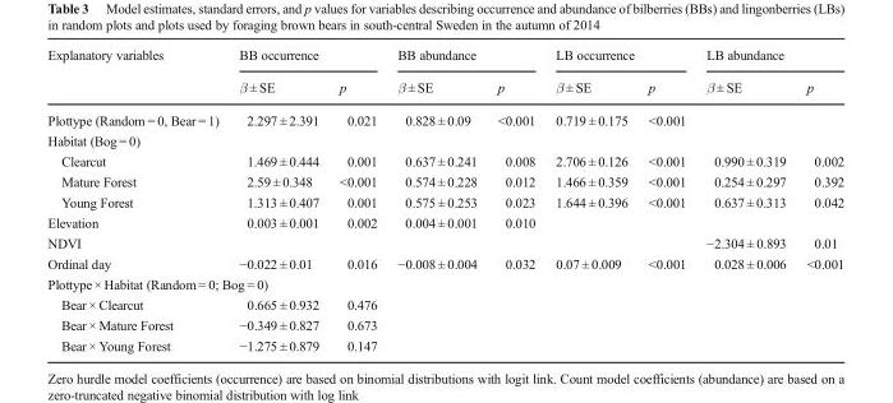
<table><thead><tr><td rowspan="2">Explanatory variables</td><td colspan="2">BB occurrence</td><td colspan="2">BB abundance</td><td colspan="2">LB occurrence</td><td colspan="2">LB abundance</td></tr><tr><td>β ± SE</td><td>p</td><td>β ± SE</td><td>p</td><td>β ± SE</td><td>p</td><td>β ± SE</td><td>p</td></tr></thead><tbody><tr><td>Plottype (Random = 0, Bear = 1)</td><td>2.297 ± 2.391</td><td>0.021</td><td>0.828 ± 0.09</td><td>&lt;0.001</td><td>0.719 ± 0.175</td><td>&lt;0.001</td><td></td><td></td></tr><tr><td colspan="9">Habitat (Bog = 0)</td></tr><tr><td>Clearcut</td><td>1.469 ± 0.444</td><td>0.001</td><td>0.637 ± 0.241</td><td>0.008</td><td>2.706 ± 0.126</td><td>&lt;0.001</td><td>0.990 ± 0.319</td><td>0.002</td></tr><tr><td>Mature Forest</td><td>2.59 ± 0.348</td><td>&lt;0.001</td><td>0.574 ± 0.228</td><td>0.012</td><td>1.466 ± 0.359</td><td>&lt;0.001</td><td>0.254 ± 0.297</td><td>0.392</td></tr><tr><td>Young Forest</td><td>1.313 ± 0.407</td><td>0.001</td><td>0.575 ± 0.253</td><td>0.023</td><td>1.644 ± 0.396</td><td>&lt;0.001</td><td>0.637 ± 0.313</td><td>0.042</td></tr><tr><td>Elevation</td><td>0.003 ± 0.001</td><td>0.002</td><td>0.004 ± 0.001</td><td>0.010</td><td></td><td></td><td></td><td></td></tr><tr><td>NDVI</td><td></td><td></td><td></td><td></td><td></td><td></td><td>−2.304 ± 0.893</td><td>0.01</td></tr><tr><td>Ordinal day</td><td>−0.022 ± 0.01</td><td>0.016</td><td>−0.008 ± 0.004</td><td>0.032</td><td>0.07 ± 0.009</td><td>&lt;0.001</td><td>0.028 ± 0.006</td><td>&lt;0.001</td></tr><tr><td colspan="9">Plottype × Habitat (Random = 0; Bog = 0)</td></tr><tr><td>Bear × Clearcut</td><td>0.665 ± 0.932</td><td>0.476</td><td></td><td></td><td></td><td></td><td></td><td></td></tr><tr><td>Bear × Mature Forest</td><td>−0.349 ± 0.827</td><td>0.673</td><td></td><td></td><td></td><td></td><td></td><td></td></tr><tr><td>Bear × Young Forest</td><td>−1.275 ± 0.879</td><td>0.147</td><td></td><td></td><td></td><td></td><td></td><td></td></tr></tbody></table>